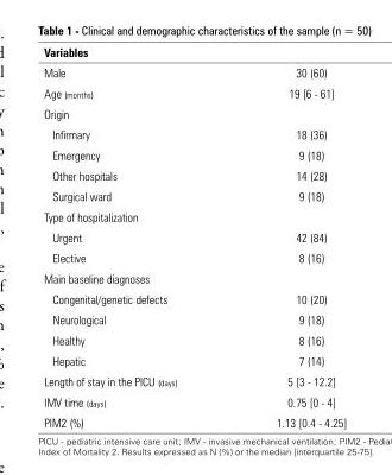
<table><thead><tr><td>Variables</td><td></td></tr></thead><tbody><tr><td>Male</td><td>30 (60)</td></tr><tr><td>Age (months)</td><td>19 [6 - 61]</td></tr><tr><td colspan="2">Origin</td></tr><tr><td>Infirmary</td><td>18 (36)</td></tr><tr><td>Emergency</td><td>9 (18)</td></tr><tr><td>Other hospitals</td><td>14 (28)</td></tr><tr><td>Surgical ward</td><td>9 (18)</td></tr><tr><td colspan="2">Type of hospitalization</td></tr><tr><td>Urgent</td><td>42 (84)</td></tr><tr><td>Elective</td><td>8 (16)</td></tr><tr><td colspan="2">Main baseline diagnoses</td></tr><tr><td>Congenital/genetic defects</td><td>10 (20)</td></tr><tr><td>Neurological</td><td>9 (18)</td></tr><tr><td>Healthy</td><td>8 (16)</td></tr><tr><td>Hepatic</td><td>7 (14)</td></tr><tr><td>Length of stay in the PICU (days)</td><td>5 [3 - 12.2]</td></tr><tr><td>IMV time (days)</td><td>0.75 [0 - 4]</td></tr><tr><td>PIM2 (%)</td><td>1.13 [0.4 - 4.25]</td></tr></tbody></table>